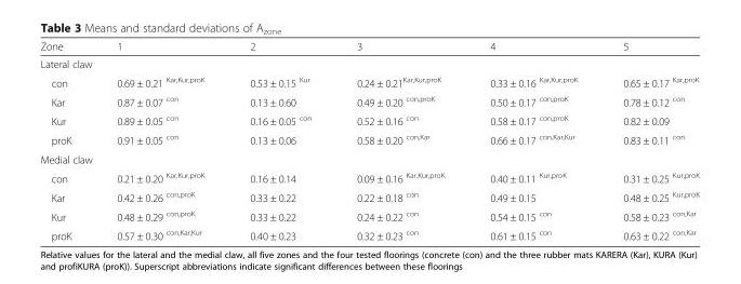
<table><thead><tr><td>Zone</td><td>1</td><td>2</td><td>3</td><td>4</td><td>5</td></tr></thead><tbody><tr><td colspan="6">Lateral claw</td></tr><tr><td>con</td><td>0.69 ± 0.21 <sup>Kar,Kur,proK</sup></td><td>0.53 ± 0.15 <sup>Kur</sup></td><td>0.24 ± 0.21<sup>Kar,Kur,proK</sup></td><td>0.33 ± 0.16 <sup>Kar,Kur,proK</sup></td><td>0.65 ± 0.17 <sup>Kar,proK</sup></td></tr><tr><td>Kar</td><td>0.87 ± 0.07 <sup>con</sup></td><td>0.13 ± 0.60</td><td>0.49 ± 0.20 <sup>con,proK</sup></td><td>0.50 ± 0.17 <sup>con,proK</sup></td><td>0.78 ± 0.12 <sup>con</sup></td></tr><tr><td>Kur</td><td>0.89 ± 0.05 <sup>con</sup></td><td>0.16 ± 0.05 <sup>con</sup></td><td>0.52 ± 0.16 <sup>con</sup></td><td>0.58 ± 0.17 <sup>con,proK</sup></td><td>0.82 ± 0.09</td></tr><tr><td>proK</td><td>0.91 ± 0.05 <sup>con</sup></td><td>0.13 ± 0.06</td><td>0.58 ± 0.20 <sup>con,Kar</sup></td><td>0.66 ± 0.17 <sup>con,Kar,Kur</sup></td><td>0.83 ± 0.11 <sup>con</sup></td></tr><tr><td colspan="6">Medial claw</td></tr><tr><td>con</td><td>0.21 ± 0.20 <sup>Kar,Kur,proK</sup></td><td>0.16 ± 0.14</td><td>0.09 ± 0.16 <sup>Kar,Kur,proK</sup></td><td>0.40 ± 0.11 <sup>Kur,proK</sup></td><td>0.31 ± 0.25 <sup>Kur,proK</sup></td></tr><tr><td>Kar</td><td>0.42 ± 0.26 <sup>con,proK</sup></td><td>0.33 ± 0.22</td><td>0.22 ± 0.18 <sup>con</sup></td><td>0.49 ± 0.15</td><td>0.48 ± 0.25 <sup>Kur,proK</sup></td></tr><tr><td>Kur</td><td>0.48 ± 0.29 <sup>con,proK</sup></td><td>0.33 ± 0.22</td><td>0.24 ± 0.22 <sup>con</sup></td><td>0.54 ± 0.15 <sup>con</sup></td><td>0.58 ± 0.23 <sup>con,Kar</sup></td></tr><tr><td>proK</td><td>0.57 ± 0.30 <sup>con,Kar,Kur</sup></td><td>0.40 ± 0.23</td><td>0.32 ± 0.23 <sup>con</sup></td><td>0.61 ± 0.15 <sup>con</sup></td><td>0.63 ± 0.22 <sup>con,Kar</sup></td></tr></tbody></table>